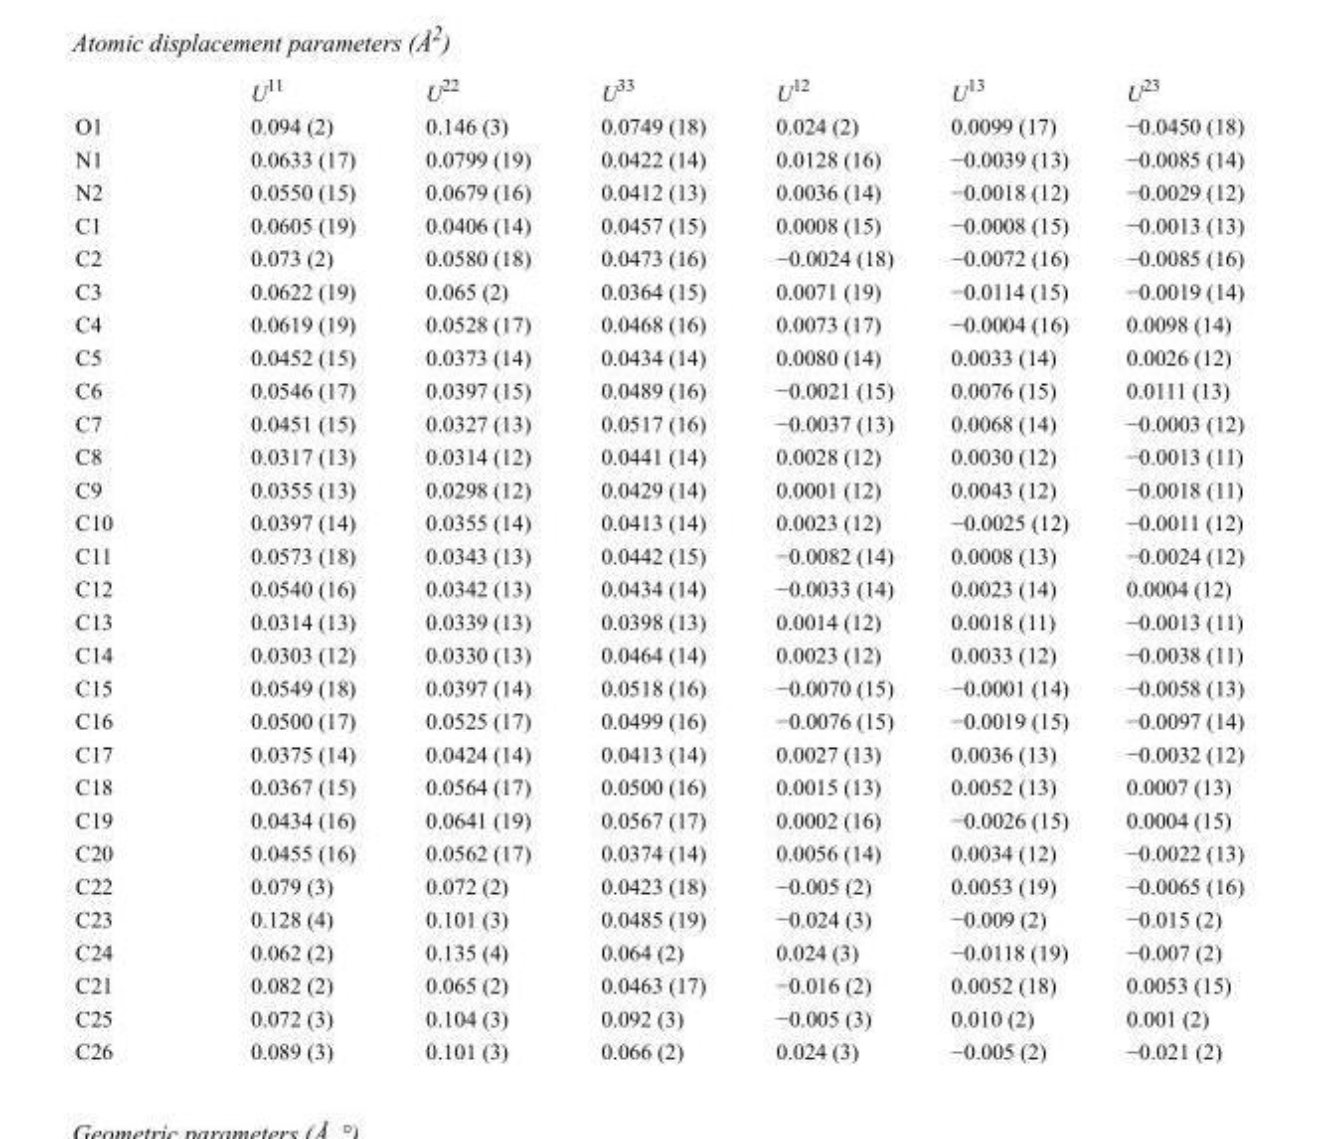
<table><thead><tr><td></td><td>U<sup>11</sup></td><td>U<sup>22</sup></td><td>U<sup>33</sup></td><td>U<sup>12</sup></td><td>U<sup>13</sup></td><td>U<sup>23</sup></td></tr></thead><tbody><tr><td>O1</td><td>0.094 (2)</td><td>0.146 (3)</td><td>0.0749 (18)</td><td>0.024 (2)</td><td>0.0099 (17)</td><td>−0.0450 (18)</td></tr><tr><td>N1</td><td>0.0633 (17)</td><td>0.0799 (19)</td><td>0.0422 (14)</td><td>0.0128 (16)</td><td>−0.0039 (13)</td><td>−0.0085 (14)</td></tr><tr><td>N2</td><td>0.0550 (15)</td><td>0.0679 (16)</td><td>0.0412 (13)</td><td>0.0036 (14)</td><td>−0.0018 (12)</td><td>−0.0029 (12)</td></tr><tr><td>C1</td><td>0.0605 (19)</td><td>0.0406 (14)</td><td>0.0457 (15)</td><td>0.0008 (15)</td><td>−0.0008 (15)</td><td>−0.0013 (13)</td></tr><tr><td>C2</td><td>0.073 (2)</td><td>0.0580 (18)</td><td>0.0473 (16)</td><td>−0.0024 (18)</td><td>−0.0072 (16)</td><td>−0.0085 (16)</td></tr><tr><td>C3</td><td>0.0622 (19)</td><td>0.065 (2)</td><td>0.0364 (15)</td><td>0.0071 (19)</td><td>−0.0114 (15)</td><td>−0.0019 (14)</td></tr><tr><td>C4</td><td>0.0619 (19)</td><td>0.0528 (17)</td><td>0.0468 (16)</td><td>0.0073 (17)</td><td>−0.0004 (16)</td><td>0.0098 (14)</td></tr><tr><td>C5</td><td>0.0452 (15)</td><td>0.0373 (14)</td><td>0.0434 (14)</td><td>0.0080 (14)</td><td>0.0033 (14)</td><td>0.0026 (12)</td></tr><tr><td>C6</td><td>0.0546 (17)</td><td>0.0397 (15)</td><td>0.0489 (16)</td><td>−0.0021 (15)</td><td>0.0076 (15)</td><td>0.0111 (13)</td></tr><tr><td>C7</td><td>0.0451 (15)</td><td>0.0327 (13)</td><td>0.0517 (16)</td><td>−0.0037 (13)</td><td>0.0068 (14)</td><td>−0.0003 (12)</td></tr><tr><td>C8</td><td>0.0317 (13)</td><td>0.0314 (12)</td><td>0.0441 (14)</td><td>0.0028 (12)</td><td>0.0030 (12)</td><td>−0.0013 (11)</td></tr><tr><td>C9</td><td>0.0355 (13)</td><td>0.0298 (12)</td><td>0.0429 (14)</td><td>0.0001 (12)</td><td>0.0043 (12)</td><td>−0.0018 (11)</td></tr><tr><td>C10</td><td>0.0397 (14)</td><td>0.0355 (14)</td><td>0.0413 (14)</td><td>0.0023 (12)</td><td>−0.0025 (12)</td><td>−0.0011 (12)</td></tr><tr><td>C11</td><td>0.0573 (18)</td><td>0.0343 (13)</td><td>0.0442 (15)</td><td>−0.0082 (14)</td><td>0.0008 (13)</td><td>−0.0024 (12)</td></tr><tr><td>C12</td><td>0.0540 (16)</td><td>0.0342 (13)</td><td>0.0434 (14)</td><td>−0.0033 (14)</td><td>0.0023 (14)</td><td>0.0004 (12)</td></tr><tr><td>C13</td><td>0.0314 (13)</td><td>0.0339 (13)</td><td>0.0398 (13)</td><td>0.0014 (12)</td><td>0.0018 (11)</td><td>−0.0013 (11)</td></tr><tr><td>C14</td><td>0.0303 (12)</td><td>0.0330 (13)</td><td>0.0464 (14)</td><td>0.0023 (12)</td><td>0.0033 (12)</td><td>−0.0038 (11)</td></tr><tr><td>C15</td><td>0.0549 (18)</td><td>0.0397 (14)</td><td>0.0518 (16)</td><td>−0.0070 (15)</td><td>−0.0001 (14)</td><td>−0.0058 (13)</td></tr><tr><td>C16</td><td>0.0500 (17)</td><td>0.0525 (17)</td><td>0.0499 (16)</td><td>−0.0076 (15)</td><td>−0.0019 (15)</td><td>−0.0097 (14)</td></tr><tr><td>C17</td><td>0.0375 (14)</td><td>0.0424 (14)</td><td>0.0413 (14)</td><td>0.0027 (13)</td><td>0.0036 (13)</td><td>−0.0032 (12)</td></tr><tr><td>C18</td><td>0.0367 (15)</td><td>0.0564 (17)</td><td>0.0500 (16)</td><td>0.0015 (13)</td><td>0.0052 (13)</td><td>0.0007 (13)</td></tr><tr><td>C19</td><td>0.0434 (16)</td><td>0.0641 (19)</td><td>0.0567 (17)</td><td>0.0002 (16)</td><td>−0.0026 (15)</td><td>0.0004 (15)</td></tr><tr><td>C20</td><td>0.0455 (16)</td><td>0.0562 (17)</td><td>0.0374 (14)</td><td>0.0056 (14)</td><td>0.0034 (12)</td><td>−0.0022 (13)</td></tr><tr><td>C22</td><td>0.079 (3)</td><td>0.072 (2)</td><td>0.0423 (18)</td><td>−0.005 (2)</td><td>0.0053 (19)</td><td>−0.0065 (16)</td></tr><tr><td>C23</td><td>0.128 (4)</td><td>0.101 (3)</td><td>0.0485 (19)</td><td>−0.024 (3)</td><td>−0.009 (2)</td><td>−0.015 (2)</td></tr><tr><td>C24</td><td>0.062 (2)</td><td>0.135 (4)</td><td>0.064 (2)</td><td>0.024 (3)</td><td>−0.0118 (19)</td><td>−0.007 (2)</td></tr><tr><td>C21</td><td>0.082 (2)</td><td>0.065 (2)</td><td>0.0463 (17)</td><td>−0.016 (2)</td><td>0.0052 (18)</td><td>0.0053 (15)</td></tr><tr><td>C25</td><td>0.072 (3)</td><td>0.104 (3)</td><td>0.092 (3)</td><td>−0.005 (3)</td><td>0.010 (2)</td><td>0.001 (2)</td></tr><tr><td>C26</td><td>0.089 (3)</td><td>0.101 (3)</td><td>0.066 (2)</td><td>0.024 (3)</td><td>−0.005 (2)</td><td>−0.021 (2)</td></tr></tbody></table>